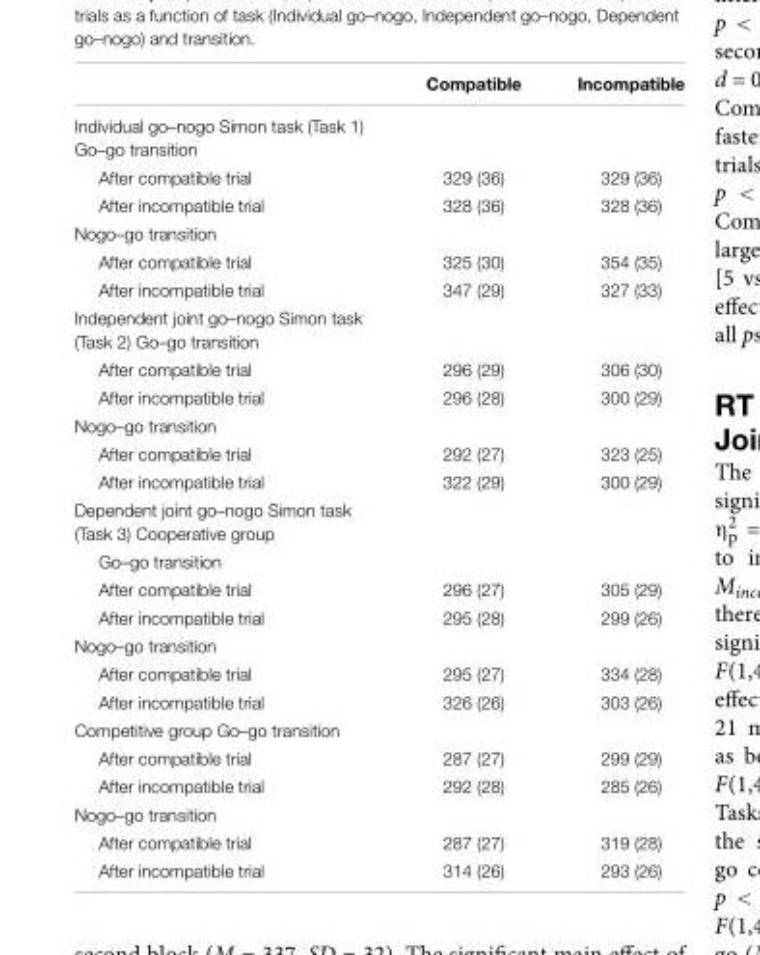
<table><thead><tr><td></td><td>Compatible</td><td>Incompatible</td></tr></thead><tbody><tr><td colspan="3">Individual go–nogo Simon task (Task 1) Go–go transition</td></tr><tr><td>After compatible trial</td><td>329 (36)</td><td>329 (36)</td></tr><tr><td>After incompatible trial</td><td>328 (36)</td><td>328 (36)</td></tr><tr><td colspan="3">Nogo–go transition</td></tr><tr><td>After compatible trial</td><td>325 (30)</td><td>354 (35)</td></tr><tr><td>After incompatible trial</td><td>347 (29)</td><td>327 (33)</td></tr><tr><td colspan="3">Independent joint go–nogo Simon task (Task 2) Go–go transition</td></tr><tr><td>After compatible trial</td><td>296 (29)</td><td>306 (30)</td></tr><tr><td>After incompatible trial</td><td>296 (28)</td><td>300 (29)</td></tr><tr><td colspan="3">Nogo–go transition</td></tr><tr><td>After compatible trial</td><td>292 (27)</td><td>323 (25)</td></tr><tr><td>After incompatible trial</td><td>322 (29)</td><td>300 (29)</td></tr><tr><td colspan="3">Dependent joint go–nogo Simon task (Task 3) Cooperative group</td></tr><tr><td colspan="3">Go–go transition</td></tr><tr><td>After compatible trial</td><td>296 (27)</td><td>305 (29)</td></tr><tr><td>After incompatible trial</td><td>295 (28)</td><td>299 (26)</td></tr><tr><td colspan="3">Nogo–go transition</td></tr><tr><td>After compatible trial</td><td>295 (27)</td><td>334 (28)</td></tr><tr><td>After incompatible trial</td><td>326 (26)</td><td>303 (26)</td></tr><tr><td colspan="3">Competitive group Go–go transition</td></tr><tr><td>After compatible trial</td><td>287 (27)</td><td>299 (29)</td></tr><tr><td>After incompatible trial</td><td>292 (28)</td><td>285 (26)</td></tr><tr><td colspan="3">Nogo–go transition</td></tr><tr><td>After compatible trial</td><td>287 (27)</td><td>319 (28)</td></tr><tr><td>After incompatible trial</td><td>314 (26)</td><td>293 (26)</td></tr></tbody></table>